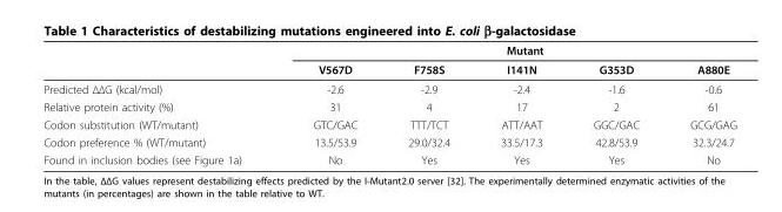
<table><thead><tr><td rowspan="2"></td><td colspan="5">Mutant</td></tr><tr><td>V567D</td><td>F758S</td><td>I141N</td><td>G353D</td><td>A880E</td></tr></thead><tbody><tr><td>Predicted ΔΔG (kcal/mol)</td><td>-2.6</td><td>-2.9</td><td>-2.4</td><td>-1.6</td><td>-0.6</td></tr><tr><td>Relative protein activity (%)</td><td>31</td><td>4</td><td>17</td><td>2</td><td>61</td></tr><tr><td>Codon substitution (WT/mutant)</td><td>GTC/GAC</td><td>TTT/TCT</td><td>ATT/AAT</td><td>GGC/GAC</td><td>GCG/GAG</td></tr><tr><td>Codon preference % (WT/mutant)</td><td>13.5/53.9</td><td>29.0/32.4</td><td>33.5/17.3</td><td>42.8/53.9</td><td>32.3/24.7</td></tr><tr><td>Found in inclusion bodies (see Figure 1a)</td><td>No</td><td>Yes</td><td>Yes</td><td>Yes</td><td>No</td></tr></tbody></table>